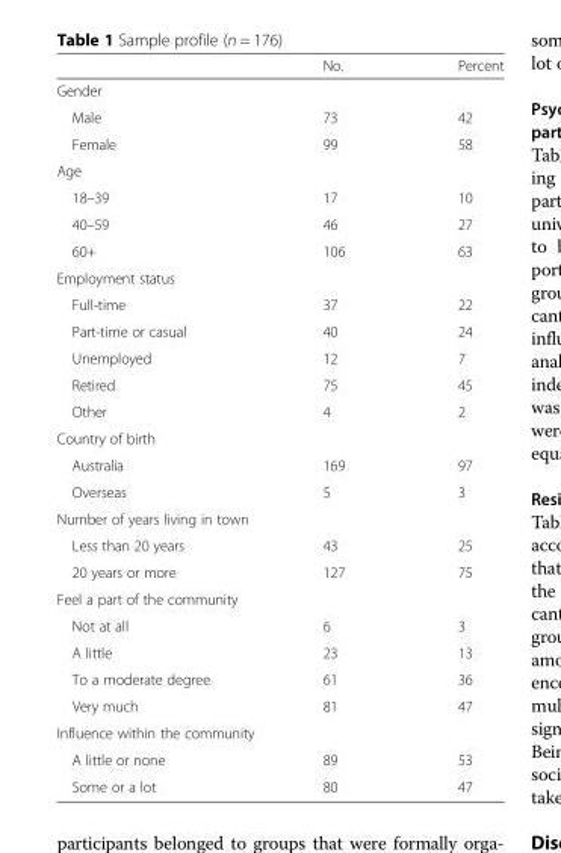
<table><thead><tr><td></td><td>No.</td><td>Percent</td></tr></thead><tbody><tr><td colspan="3">Gender</td></tr><tr><td>Male</td><td>73</td><td>42</td></tr><tr><td>Female</td><td>99</td><td>58</td></tr><tr><td colspan="3">Age</td></tr><tr><td>18–39</td><td>17</td><td>10</td></tr><tr><td>40–59</td><td>46</td><td>27</td></tr><tr><td>60+</td><td>106</td><td>63</td></tr><tr><td colspan="3">Employment status</td></tr><tr><td>Full-time</td><td>37</td><td>22</td></tr><tr><td>Part-time or casual</td><td>40</td><td>24</td></tr><tr><td>Unemployed</td><td>12</td><td>7</td></tr><tr><td>Retired</td><td>75</td><td>45</td></tr><tr><td>Other</td><td>4</td><td>2</td></tr><tr><td colspan="3">Country of birth</td></tr><tr><td>Australia</td><td>169</td><td>97</td></tr><tr><td>Overseas</td><td>5</td><td>3</td></tr><tr><td colspan="3">Number of years living in town</td></tr><tr><td>Less than 20 years</td><td>43</td><td>25</td></tr><tr><td>20 years or more</td><td>127</td><td>75</td></tr><tr><td colspan="3">Feel a part of the community</td></tr><tr><td>Not at all</td><td>6</td><td>3</td></tr><tr><td>A little</td><td>23</td><td>13</td></tr><tr><td>To a moderate degree</td><td>61</td><td>36</td></tr><tr><td>Very much</td><td>81</td><td>47</td></tr><tr><td colspan="3">Influence within the community</td></tr><tr><td>A little or none</td><td>89</td><td>53</td></tr><tr><td>Some or a lot</td><td>80</td><td>47</td></tr></tbody></table>